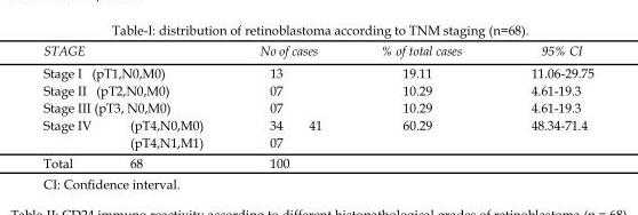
<table><thead><tr><td colspan="2">STAGE</td><td colspan="2">No of cases</td><td>% of total cases</td><td>95% CI</td></tr></thead><tbody><tr><td colspan="2">Stage I (pT1,N0,M0)</td><td>13</td><td></td><td>19.11</td><td>11.06-29.75</td></tr><tr><td colspan="2">Stage II (pT2,N0,M0)</td><td>07</td><td></td><td>10.29</td><td>4.61-19.3</td></tr><tr><td colspan="2">Stage III (pT3, N0,M0)</td><td>07</td><td></td><td>10.29</td><td>4.61-19.3</td></tr><tr><td rowspan="2">Stage IV</td><td>(pT4,N0,M0)</td><td>34</td><td>41</td><td>60.29</td><td>48.34-71.4</td></tr><tr><td>(pT4,N1,M1)</td><td>07</td><td></td><td></td><td></td></tr><tr><td>Total</td><td>68</td><td>100</td><td></td><td></td><td></td></tr></tbody></table>